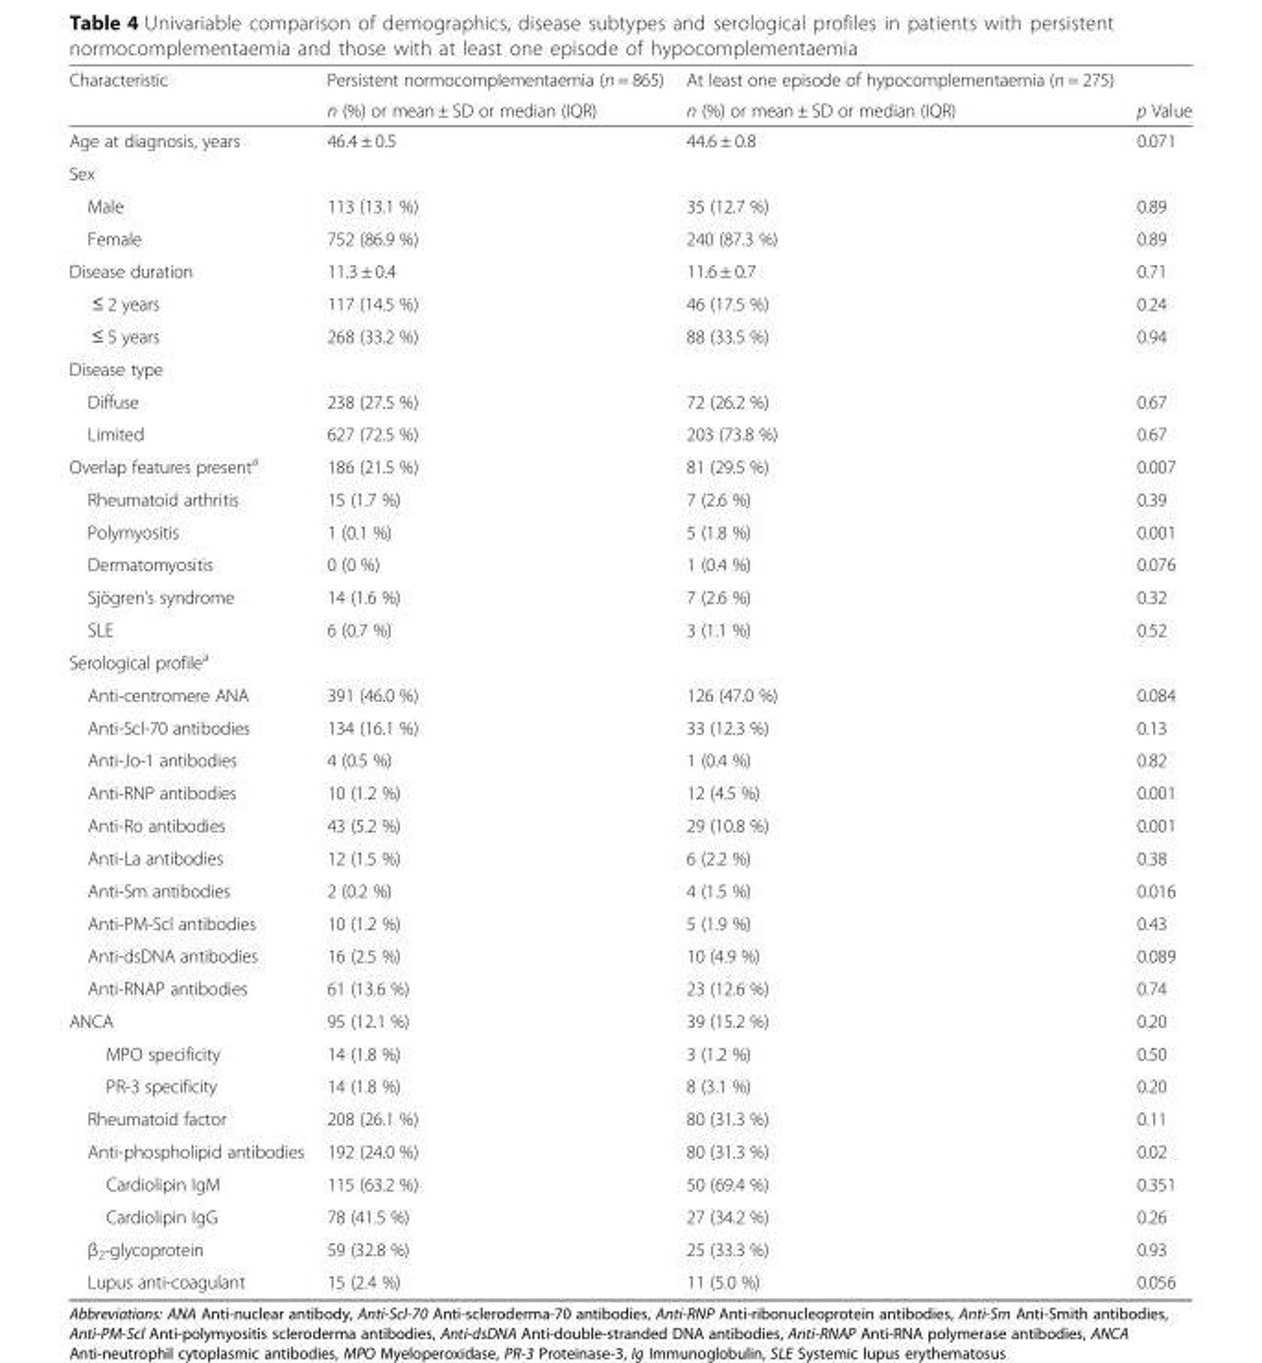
<table><thead><tr><td rowspan="2">Characteristic</td><td rowspan="2">Persistent normocomplementaemia (n = 865) n (%) or mean ± SD or median (IQR)</td><td rowspan="2">At least one episode of hypocomplementaemia (n = 275) n (%) or mean ± SD or median (IQR)</td><td rowspan="2">p Value</td></tr><tr></tr></thead><tbody><tr><td>Age at diagnosis, years</td><td>46.4 ± 0.5</td><td>44.6 ± 0.8</td><td>0.071</td></tr><tr><td colspan="4">Sex</td></tr><tr><td>Male</td><td>113 (13.1 %)</td><td>35 (12.7 %)</td><td>0.89</td></tr><tr><td>Female</td><td>752 (86.9 %)</td><td>240 (87.3 %)</td><td>0.89</td></tr><tr><td>Disease duration</td><td>11.3 ± 0.4</td><td>11.6 ± 0.7</td><td>0.71</td></tr><tr><td>≤ 2 years</td><td>117 (14.5 %)</td><td>46 (17.5 %)</td><td>0.24</td></tr><tr><td>≤ 5 years</td><td>268 (33.2 %)</td><td>88 (33.5 %)</td><td>0.94</td></tr><tr><td colspan="4">Disease type</td></tr><tr><td>Diffuse</td><td>238 (27.5 %)</td><td>72 (26.2 %)</td><td>0.67</td></tr><tr><td>Limited</td><td>627 (72.5 %)</td><td>203 (73.8 %)</td><td>0.67</td></tr><tr><td>Overlap features present<sup>a</sup></td><td>186 (21.5 %)</td><td>81 (29.5 %)</td><td>0.007</td></tr><tr><td>Rheumatoid arthritis</td><td>15 (1.7 %)</td><td>7 (2.6 %)</td><td>0.39</td></tr><tr><td>Polymyositis</td><td>1 (0.1 %)</td><td>5 (1.8 %)</td><td>0.001</td></tr><tr><td>Dermatomyositis</td><td>0 (0 %)</td><td>1 (0.4 %)</td><td>0.076</td></tr><tr><td>Sjögren’s syndrome</td><td>14 (1.6 %)</td><td>7 (2.6 %)</td><td>0.32</td></tr><tr><td>SLE</td><td>6 (0.7 %)</td><td>3 (1.1 %)</td><td>0.52</td></tr><tr><td colspan="4">Serological profile<sup>a</sup></td></tr><tr><td>Anti-centromere ANA</td><td>391 (46.0 %)</td><td>126 (47.0 %)</td><td>0.084</td></tr><tr><td>Anti-Scl-70 antibodies</td><td>134 (16.1 %)</td><td>33 (12.3 %)</td><td>0.13</td></tr><tr><td>Anti-Jo-1 antibodies</td><td>4 (0.5 %)</td><td>1 (0.4 %)</td><td>0.82</td></tr><tr><td>Anti-RNP antibodies</td><td>10 (1.2 %)</td><td>12 (4.5 %)</td><td>0.001</td></tr><tr><td>Anti-Ro antibodies</td><td>43 (5.2 %)</td><td>29 (10.8 %)</td><td>0.001</td></tr><tr><td>Anti-La antibodies</td><td>12 (1.5 %)</td><td>6 (2.2 %)</td><td>0.38</td></tr><tr><td>Anti-Sm antibodies</td><td>2 (0.2 %)</td><td>4 (1.5 %)</td><td>0.016</td></tr><tr><td>Anti-PM-Scl antibodies</td><td>10 (1.2 %)</td><td>5 (1.9 %)</td><td>0.43</td></tr><tr><td>Anti-dsDNA antibodies</td><td>16 (2.5 %)</td><td>10 (4.9 %)</td><td>0.089</td></tr><tr><td>Anti-RNAP antibodies</td><td>61 (13.6 %)</td><td>23 (12.6 %)</td><td>0.74</td></tr><tr><td>ANCA</td><td>95 (12.1 %)</td><td>39 (15.2 %)</td><td>0.20</td></tr><tr><td>MPO specificity</td><td>14 (1.8 %)</td><td>3 (1.2 %)</td><td>0.50</td></tr><tr><td>PR-3 specificity</td><td>14 (1.8 %)</td><td>8 (3.1 %)</td><td>0.20</td></tr><tr><td>Rheumatoid factor</td><td>208 (26.1 %)</td><td>80 (31.3 %)</td><td>0.11</td></tr><tr><td>Anti-phospholipid antibodies</td><td>192 (24.0 %)</td><td>80 (31.3 %)</td><td>0.02</td></tr><tr><td>Cardiolipin IgM</td><td>115 (63.2 %)</td><td>50 (69.4 %)</td><td>0.351</td></tr><tr><td>Cardiolipin IgG</td><td>78 (41.5 %)</td><td>27 (34.2 %)</td><td>0.26</td></tr><tr><td>β<sub>2</sub>-glycoprotein</td><td>59 (32.8 %)</td><td>25 (33.3 %)</td><td>0.93</td></tr><tr><td>Lupus anti-coagulant</td><td>15 (2.4 %)</td><td>11 (5.0 %)</td><td>0.056</td></tr></tbody></table>